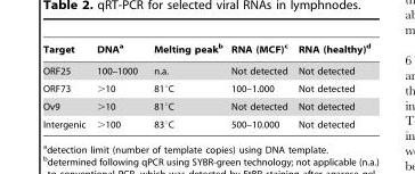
<table><thead><tr><td>Target</td><td>DNA<sup>a</sup></td><td>Melting peak<sup>b</sup></td><td>RNA (MCF)<sup>c</sup></td><td>RNA (healthy)<sup>d</sup></td></tr></thead><tbody><tr><td>ORF25</td><td>100–1000</td><td>n.a.</td><td>Not detected</td><td>Not detected</td></tr><tr><td>ORF73</td><td>&gt;10</td><td>81°C</td><td>100–1.000</td><td>Not detected</td></tr><tr><td>Ov9</td><td>&gt;10</td><td>81°C</td><td>Not detected</td><td>Not detected</td></tr><tr><td>Intergenic</td><td>&gt;100</td><td>83°C</td><td>500–10.000</td><td>Not detected</td></tr></tbody></table>